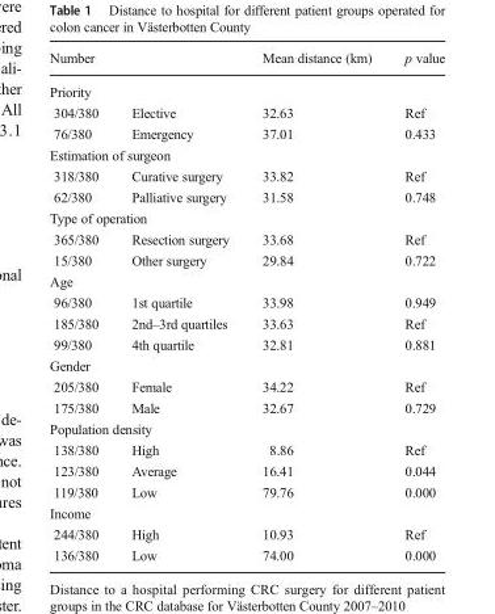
<table><thead><tr><td>Number</td><td></td><td>Mean distance (km)</td><td>p value</td></tr></thead><tbody><tr><td colspan="4">Priority</td></tr><tr><td>304/380</td><td>Elective</td><td>32.63</td><td>Ref</td></tr><tr><td>76/380</td><td>Emergency</td><td>37.01</td><td>0.433</td></tr><tr><td colspan="4">Estimation of surgeon</td></tr><tr><td>318/380</td><td>Curative surgery</td><td>33.82</td><td>Ref</td></tr><tr><td>62/380</td><td>Palliative surgery</td><td>31.58</td><td>0.748</td></tr><tr><td colspan="4">Type of operation</td></tr><tr><td>365/380</td><td>Resection surgery</td><td>33.68</td><td>Ref</td></tr><tr><td>15/380</td><td>Other surgery</td><td>29.84</td><td>0.722</td></tr><tr><td colspan="4">Age</td></tr><tr><td>96/380</td><td>1st quartile</td><td>33.98</td><td>0.949</td></tr><tr><td>185/380</td><td>2nd–3rd quartiles</td><td>33.63</td><td>Ref</td></tr><tr><td>99/380</td><td>4th quartile</td><td>32.81</td><td>0.881</td></tr><tr><td colspan="4">Gender</td></tr><tr><td>205/380</td><td>Female</td><td>34.22</td><td>Ref</td></tr><tr><td>175/380</td><td>Male</td><td>32.67</td><td>0.729</td></tr><tr><td colspan="4">Population density</td></tr><tr><td>138/380</td><td>High</td><td>8.86</td><td>Ref</td></tr><tr><td>123/380</td><td>Average</td><td>16.41</td><td>0.044</td></tr><tr><td>119/380</td><td>Low</td><td>79.76</td><td>0.000</td></tr><tr><td colspan="4">Income</td></tr><tr><td>244/380</td><td>High</td><td>10.93</td><td>Ref</td></tr><tr><td>136/380</td><td>Low</td><td>74.00</td><td>0.000</td></tr></tbody></table>